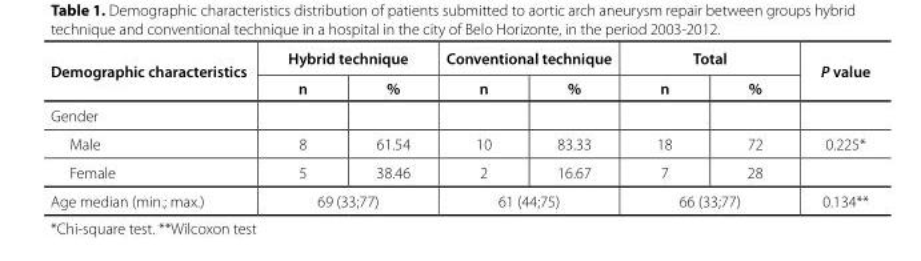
<table><thead><tr><td rowspan="2">Demographic characteristics</td><td colspan="2">Hybrid technique</td><td colspan="2">Conventional technique</td><td colspan="2">Total</td><td rowspan="2">P value</td></tr><tr><td>n</td><td>%</td><td>n</td><td>%</td><td>n</td><td>%</td></tr></thead><tbody><tr><td colspan="8">Gender</td></tr><tr><td>Male</td><td>8</td><td>61.54</td><td>10</td><td>83.33</td><td>18</td><td>72</td><td>0.225*</td></tr><tr><td>Female</td><td>5</td><td>38.46</td><td>2</td><td>16.67</td><td>7</td><td>28</td><td></td></tr><tr><td>Age median (min.; max.)</td><td colspan="2">69 (33;77)</td><td colspan="2">61 (44;75)</td><td colspan="2">66 (33;77)</td><td>0.134**</td></tr></tbody></table>